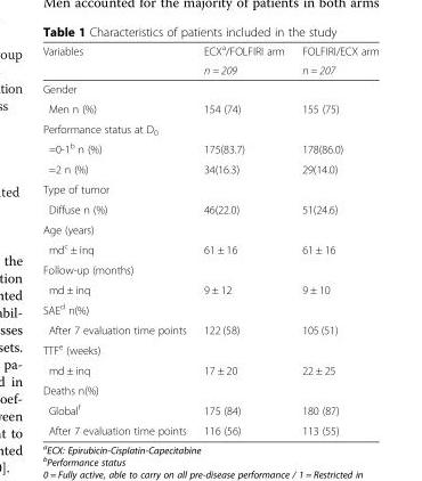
<table><thead><tr><td rowspan="2">Variables</td><td rowspan="2">ECX<sup>a</sup>/FOLFIRI arm n = 209</td><td rowspan="2">FOLFIRI/ECX arm n = 207</td></tr><tr></tr></thead><tbody><tr><td colspan="3">Gender</td></tr><tr><td>Men n (%)</td><td>154 (74)</td><td>155 (75)</td></tr><tr><td colspan="3">Performance status at D<sub>0</sub></td></tr><tr><td>=0-1<sup>b</sup> n (%)</td><td>175(83.7)</td><td>178(86.0)</td></tr><tr><td>=2 n (%)</td><td>34(16.3)</td><td>29(14.0)</td></tr><tr><td colspan="3">Type of tumor</td></tr><tr><td>Diffuse n (%)</td><td>46(22.0)</td><td>51(24.6)</td></tr><tr><td colspan="3">Age (years)</td></tr><tr><td>md<sup>c</sup> ± inq</td><td>61 ± 16</td><td>61 ± 16</td></tr><tr><td colspan="3">Follow-up (months)</td></tr><tr><td>md ± inq</td><td>9 ± 12</td><td>9 ± 10</td></tr><tr><td colspan="3">SAE<sup>d</sup> n(%)</td></tr><tr><td>After 7 evaluation time points</td><td>122 (58)</td><td>105 (51)</td></tr><tr><td colspan="3">TTF<sup>e</sup> (weeks)</td></tr><tr><td>md ± inq</td><td>17 ± 20</td><td>22 ± 25</td></tr><tr><td colspan="3">Deaths n(%)</td></tr><tr><td>Global<sup>f</sup></td><td>175 (84)</td><td>180 (87)</td></tr><tr><td>After 7 evaluation time points</td><td>116 (56)</td><td>113 (55)</td></tr></tbody></table>